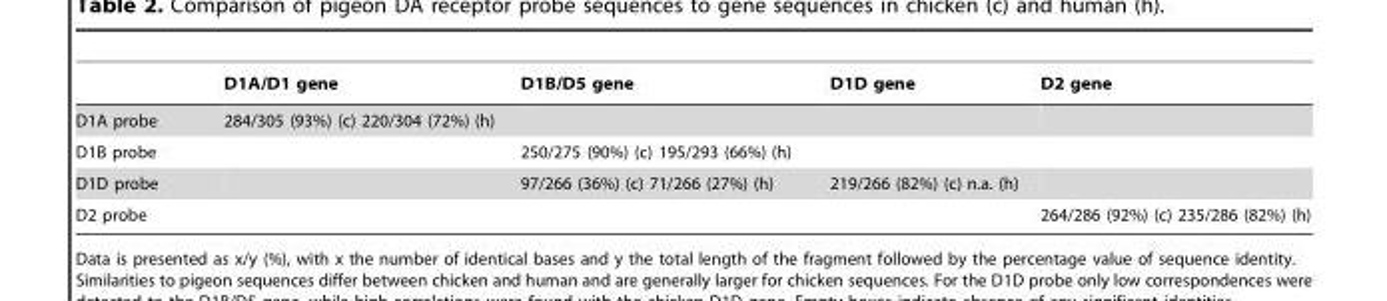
<table><thead><tr><td></td><td>D1A/D1 gene</td><td>D1B/D5 gene</td><td>D1D gene</td><td>D2 gene</td></tr></thead><tbody><tr><td>D1A probe</td><td>284/305 (93%) (c) 220/304 (72%) (h)</td><td></td><td></td><td></td></tr><tr><td>D1B probe</td><td></td><td>250/275 (90%) (c) 195/293 (66%) (h)</td><td></td><td></td></tr><tr><td>D1D probe</td><td></td><td>97/266 (36%) (c) 71/266 (27%) (h)</td><td>219/266 (82%) (c) n.a. (h)</td><td></td></tr><tr><td>D2 probe</td><td></td><td></td><td></td><td>264/286 (92%) (c) 235/286 (82%) (h)</td></tr></tbody></table>